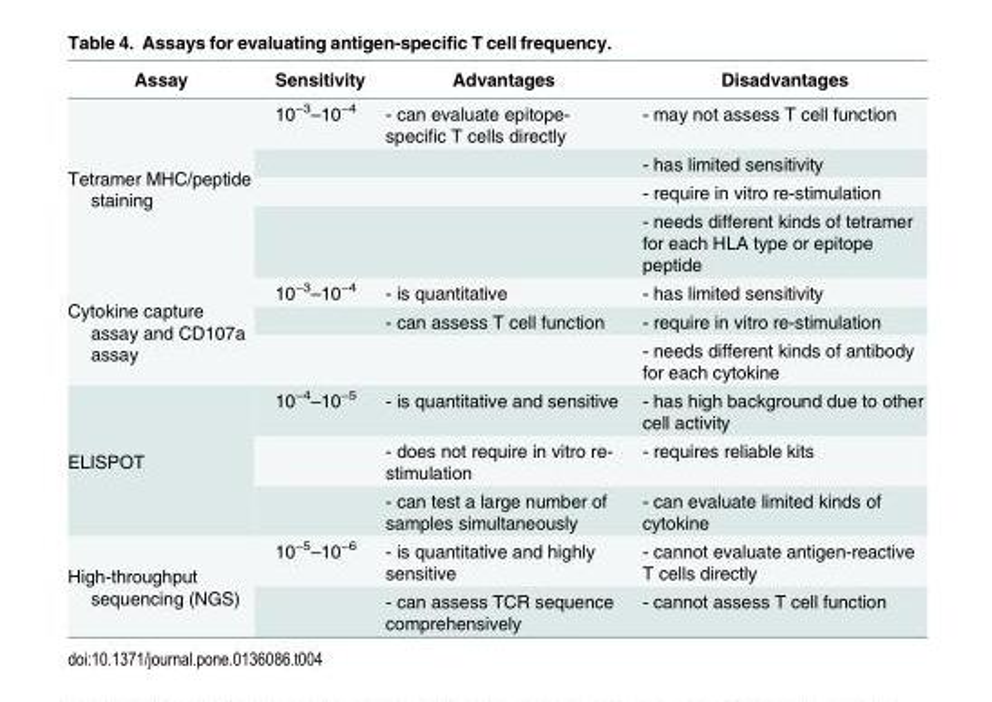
<table><thead><tr><td>Assay</td><td>Sensitivity</td><td>Advantages</td><td>Disadvantages</td></tr></thead><tbody><tr><td rowspan="4">Tetramer MHC/peptide staining</td><td>10<sup>−3</sup>–10<sup>−4</sup></td><td>- can evaluate epitope- specific T cells directly</td><td>- may not assess T cell function</td></tr><tr><td></td><td></td><td>- has limited sensitivity</td></tr><tr><td></td><td></td><td>- require in vitro re-stimulation</td></tr><tr><td></td><td></td><td>- needs different kinds of tetramer for each HLA type or epitope peptide</td></tr><tr><td rowspan="3">Cytokine capture assay and CD107a assay</td><td>10<sup>−3</sup>–10<sup>−4</sup></td><td>- is quantitative</td><td>- has limited sensitivity</td></tr><tr><td></td><td>- can assess T cell function</td><td>- require in vitro re-stimulation</td></tr><tr><td></td><td></td><td>- needs different kinds of antibody for each cytokine</td></tr><tr><td rowspan="3">ELISPOT</td><td>10<sup>−4</sup>–10<sup>−5</sup></td><td>- is quantitative and sensitive</td><td>- has high background due to other cell activity</td></tr><tr><td></td><td>- does not require in vitro re- stimulation</td><td>- requires reliable kits</td></tr><tr><td></td><td>- can test a large number of samples simultaneously</td><td>- can evaluate limited kinds of cytokine</td></tr><tr><td rowspan="2">High-throughput sequencing (NGS)</td><td>10<sup>−5</sup>–10<sup>−6</sup></td><td>- is quantitative and highly sensitive</td><td>- cannot evaluate antigen-reactive T cells directly</td></tr><tr><td></td><td>- can assess TCR sequence comprehensively</td><td>- cannot assess T cell function</td></tr></tbody></table>